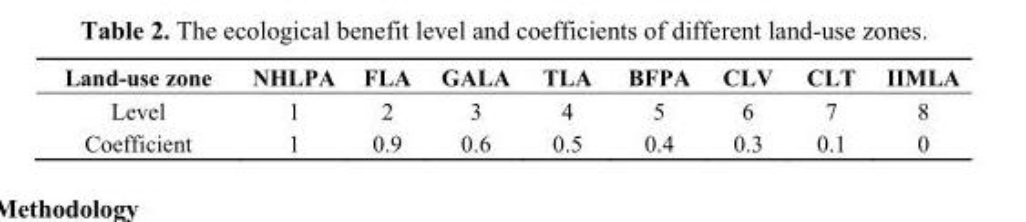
<table><thead><tr><td>Land-use zone</td><td>NHLPA</td><td>FLA</td><td>GALA</td><td>TLA</td><td>BFPA</td><td>CLV</td><td>CLT</td><td>IIMLA</td></tr></thead><tbody><tr><td>Level</td><td>1</td><td>2</td><td>3</td><td>4</td><td>5</td><td>6</td><td>7</td><td>8</td></tr><tr><td>Coefficient</td><td>1</td><td>0.9</td><td>0.6</td><td>0.5</td><td>0.4</td><td>0.3</td><td>0.1</td><td>0</td></tr></tbody></table>